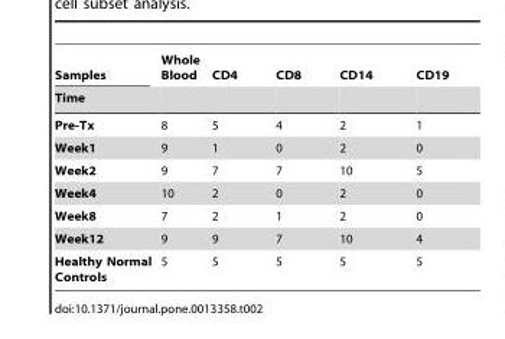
<table><thead><tr><td rowspan="2">Samples Time</td><td rowspan="2">Whole Blood</td><td rowspan="2">CD4</td><td rowspan="2">CD8</td><td rowspan="2">CD14</td><td rowspan="2">CD19</td></tr><tr></tr></thead><tbody><tr><td>Pre-Tx</td><td>8</td><td>5</td><td>4</td><td>2</td><td>1</td></tr><tr><td>Week1</td><td>9</td><td>1</td><td>0</td><td>2</td><td>0</td></tr><tr><td>Week2</td><td>9</td><td>7</td><td>7</td><td>10</td><td>5</td></tr><tr><td>Week4</td><td>10</td><td>2</td><td>0</td><td>2</td><td>0</td></tr><tr><td>Week8</td><td>7</td><td>2</td><td>1</td><td>2</td><td>0</td></tr><tr><td>Week12</td><td>9</td><td>9</td><td>7</td><td>10</td><td>4</td></tr><tr><td>Healthy Normal Controls</td><td>5</td><td>5</td><td>5</td><td>5</td><td>5</td></tr></tbody></table>